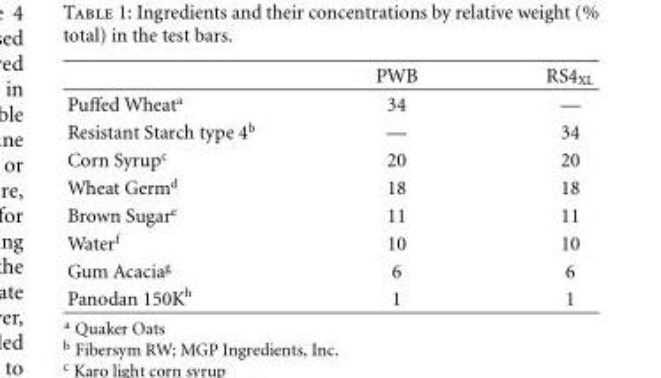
<table><thead><tr><td></td><td>PWB</td><td>RS4<sub>XL</sub></td></tr></thead><tbody><tr><td>Puffed Wheat<sup>a</sup></td><td>34</td><td>—</td></tr><tr><td>Resistant Starch type 4<sup>b</sup></td><td>—</td><td>34</td></tr><tr><td>Corn Syrup<sup>c</sup></td><td>20</td><td>20</td></tr><tr><td>Wheat Germ<sup>d</sup></td><td>18</td><td>18</td></tr><tr><td>Brown Sugar<sup>e</sup></td><td>11</td><td>11</td></tr><tr><td>Water<sup>f</sup></td><td>10</td><td>10</td></tr><tr><td>Gum Acacia<sup>g</sup></td><td>6</td><td>6</td></tr><tr><td>Panodan 150K<sup>h</sup></td><td>1</td><td>1</td></tr></tbody></table>